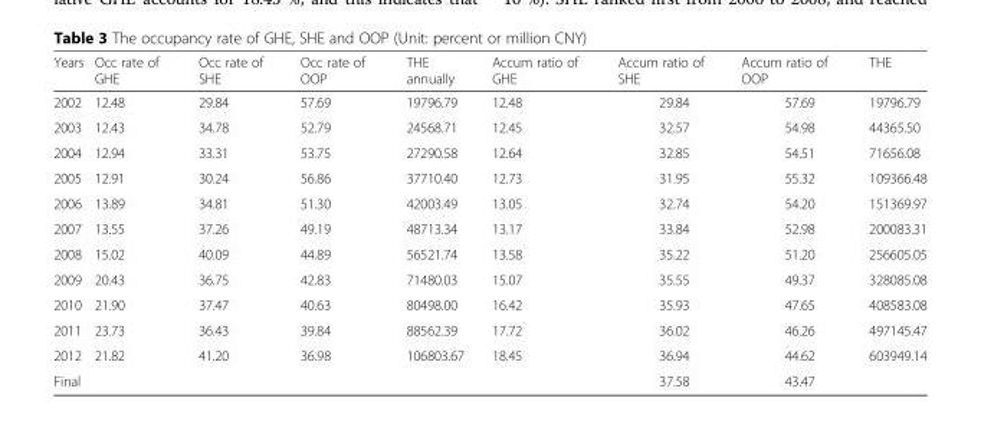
<table><thead><tr><td>Years</td><td>Occ rate of GHE</td><td>Occ rate of SHE</td><td>Occ rate of OOP</td><td>THE annually</td><td>Accum ratio of GHE</td><td>Accum ratio of SHE</td><td>Accum ratio of OOP</td><td>THE</td></tr></thead><tbody><tr><td>2002</td><td>12.48</td><td>29.84</td><td>57.69</td><td>19796.79</td><td>12.48</td><td>29.84</td><td>57.69</td><td>19796.79</td></tr><tr><td>2003</td><td>12.43</td><td>34.78</td><td>52.79</td><td>24568.71</td><td>12.45</td><td>32.57</td><td>54.98</td><td>44365.50</td></tr><tr><td>2004</td><td>12.94</td><td>33.31</td><td>53.75</td><td>27290.58</td><td>12.64</td><td>32.85</td><td>54.51</td><td>71656.08</td></tr><tr><td>2005</td><td>12.91</td><td>30.24</td><td>56.86</td><td>37710.40</td><td>12.73</td><td>31.95</td><td>55.32</td><td>109366.48</td></tr><tr><td>2006</td><td>13.89</td><td>34.81</td><td>51.30</td><td>42003.49</td><td>13.05</td><td>32.74</td><td>54.20</td><td>151369.97</td></tr><tr><td>2007</td><td>13.55</td><td>37.26</td><td>49.19</td><td>48713.34</td><td>13.17</td><td>33.84</td><td>52.98</td><td>200083.31</td></tr><tr><td>2008</td><td>15.02</td><td>40.09</td><td>44.89</td><td>56521.74</td><td>13.58</td><td>35.22</td><td>51.20</td><td>256605.05</td></tr><tr><td>2009</td><td>20.43</td><td>36.75</td><td>42.83</td><td>71480.03</td><td>15.07</td><td>35.55</td><td>49.37</td><td>328085.08</td></tr><tr><td>2010</td><td>21.90</td><td>37.47</td><td>40.63</td><td>80498.00</td><td>16.42</td><td>35.93</td><td>47.65</td><td>408583.08</td></tr><tr><td>2011</td><td>23.73</td><td>36.43</td><td>39.84</td><td>88562.39</td><td>17.72</td><td>36.02</td><td>46.26</td><td>497145.47</td></tr><tr><td>2012</td><td>21.82</td><td>41.20</td><td>36.98</td><td>106803.67</td><td>18.45</td><td>36.94</td><td>44.62</td><td>603949.14</td></tr><tr><td>Final</td><td></td><td></td><td></td><td></td><td></td><td>37.58</td><td>43.47</td><td></td></tr></tbody></table>